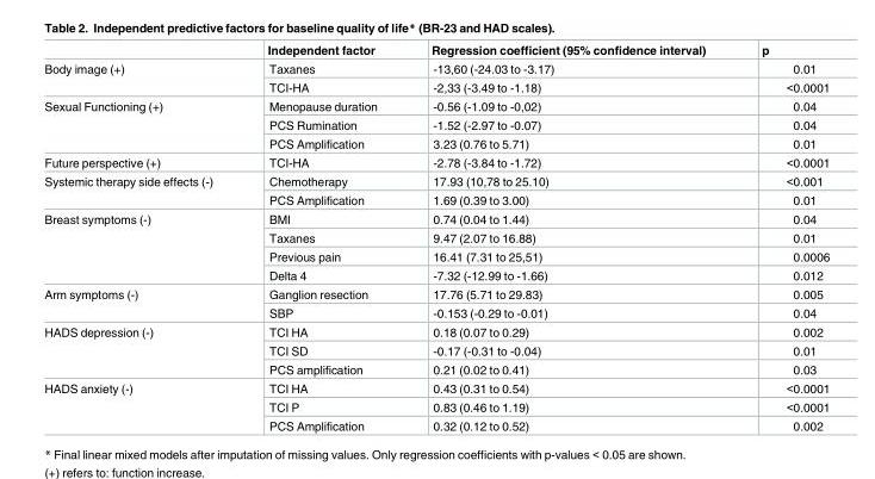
<table><thead><tr><td></td><td>Independent factor</td><td>Regression coefficient (95% confidence interval)</td><td>p</td></tr></thead><tbody><tr><td rowspan="2">Body image (+)</td><td>Taxanes</td><td>-13,60 (-24.03 to -3.17)</td><td>0.01</td></tr><tr><td>TCI-HA</td><td>-2,33 (-3.49 to -1.18)</td><td>&lt;0.0001</td></tr><tr><td rowspan="3">Sexual Functioning (+)</td><td>Menopause duration</td><td>-0.56 (-1.09 to -0,02)</td><td>0.04</td></tr><tr><td>PCS Rumination</td><td>-1.52 (-2.97 to -0.07)</td><td>0.04</td></tr><tr><td>PCS Amplification</td><td>3.23 (0.76 to 5.71)</td><td>0.01</td></tr><tr><td>Future perspective (+)</td><td>TCI-HA</td><td>-2.78 (-3.84 to -1.72)</td><td>&lt;0.0001</td></tr><tr><td rowspan="2">Systemic therapy side effects (-)</td><td>Chemotherapy</td><td>17.93 (10,78 to 25.10)</td><td>&lt;0.001</td></tr><tr><td>PCS Amplification</td><td>1.69 (0.39 to 3.00)</td><td>0.01</td></tr><tr><td rowspan="4">Breast symptoms (-)</td><td>BMI</td><td>0.74 (0.04 to 1.44)</td><td>0.04</td></tr><tr><td>Taxanes</td><td>9.47 (2.07 to 16.88)</td><td>0.01</td></tr><tr><td>Previous pain</td><td>16.41 (7.31 to 25,51)</td><td>0.0006</td></tr><tr><td>Delta 4</td><td>-7.32 (-12.99 to -1.66)</td><td>0.012</td></tr><tr><td rowspan="2">Arm symptoms (-)</td><td>Ganglion resection</td><td>17.76 (5.71 to 29.83)</td><td>0.005</td></tr><tr><td>SBP</td><td>-0.153 (-0.29 to -0.01)</td><td>0.04</td></tr><tr><td rowspan="3">HADS depression (-)</td><td>TCI HA</td><td>0.18 (0.07 to 0.29)</td><td>0.002</td></tr><tr><td>TCI SD</td><td>-0.17 (-0.31 to -0.04)</td><td>0.01</td></tr><tr><td>PCS amplification</td><td>0.21 (0.02 to 0.41)</td><td>0.03</td></tr><tr><td rowspan="3">HADS anxiety (-)</td><td>TCI HA</td><td>0.43 (0.31 to 0.54)</td><td>&lt;0.0001</td></tr><tr><td>TCI P</td><td>0.83 (0.46 to 1.19)</td><td>&lt;0.0001</td></tr><tr><td>PCS Amplification</td><td>0.32 (0.12 to 0.52)</td><td>0.002</td></tr></tbody></table>